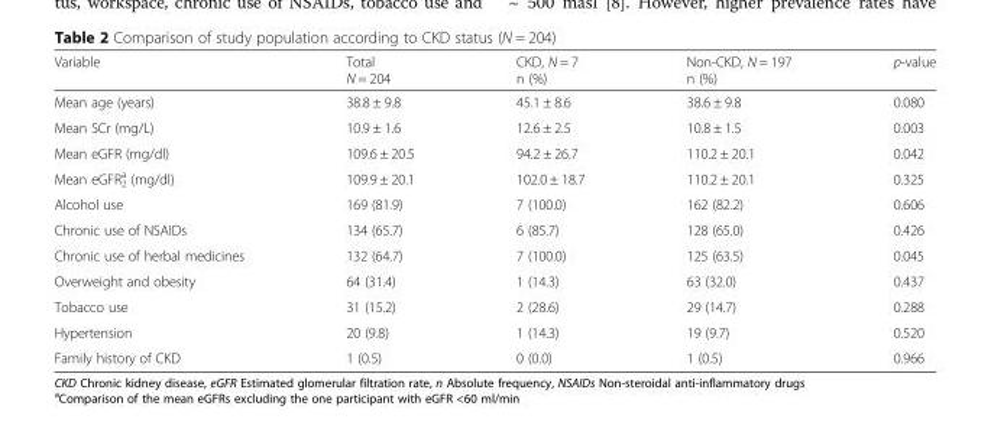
<table><thead><tr><td>Variable</td><td>Total N = 204</td><td>CKD, N = 7 n (%)</td><td>Non-CKD, N = 197 n (%)</td><td>p-value</td></tr></thead><tbody><tr><td>Mean age (years)</td><td>38.8 ± 9.8</td><td>45.1 ± 8.6</td><td>38.6 ± 9.8</td><td>0.080</td></tr><tr><td>Mean SCr (mg/L)</td><td>10.9 ± 1.6</td><td>12.6 ± 2.5</td><td>10.8 ± 1.5</td><td>0.003</td></tr><tr><td>Mean eGFR (mg/dl)</td><td>109.6 ± 20.5</td><td>94.2 ± 26.7</td><td>110.2 ± 20.1</td><td>0.042</td></tr><tr><td>Mean eGFR<sub>2</sub> <sup>a</sup> (mg/dl)</td><td>109.9 ± 20.1</td><td>102.0 ± 18.7</td><td>110.2 ± 20.1</td><td>0.325</td></tr><tr><td>Alcohol use</td><td>169 (81.9)</td><td>7 (100.0)</td><td>162 (82.2)</td><td>0.606</td></tr><tr><td>Chronic use of NSAIDs</td><td>134 (65.7)</td><td>6 (85.7)</td><td>128 (65.0)</td><td>0.426</td></tr><tr><td>Chronic use of herbal medicines</td><td>132 (64.7)</td><td>7 (100.0)</td><td>125 (63.5)</td><td>0.045</td></tr><tr><td>Overweight and obesity</td><td>64 (31.4)</td><td>1 (14.3)</td><td>63 (32.0)</td><td>0.437</td></tr><tr><td>Tobacco use</td><td>31 (15.2)</td><td>2 (28.6)</td><td>29 (14.7)</td><td>0.288</td></tr><tr><td>Hypertension</td><td>20 (9.8)</td><td>1 (14.3)</td><td>19 (9.7)</td><td>0.520</td></tr><tr><td>Family history of CKD</td><td>1 (0.5)</td><td>0 (0.0)</td><td>1 (0.5)</td><td>0.966</td></tr></tbody></table>